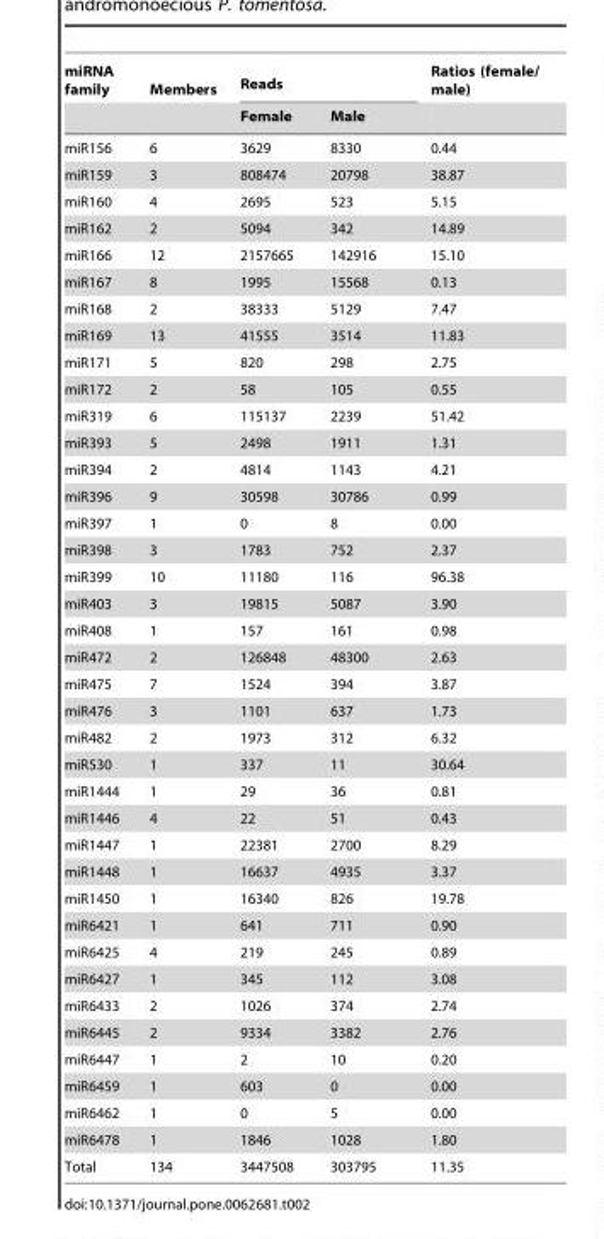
<table><thead><tr><td rowspan="2">miRNA family</td><td rowspan="2">Members</td><td colspan="2">Reads</td><td rowspan="2">Ratios (female/ male)</td></tr><tr><td>Female</td><td>Male</td></tr></thead><tbody><tr><td>miR156</td><td>6</td><td>3629</td><td>8330</td><td>0.44</td></tr><tr><td>miR159</td><td>3</td><td>808474</td><td>20798</td><td>38.87</td></tr><tr><td>miR160</td><td>4</td><td>2695</td><td>523</td><td>5.15</td></tr><tr><td>miR162</td><td>2</td><td>5094</td><td>342</td><td>14.89</td></tr><tr><td>miR166</td><td>12</td><td>2157665</td><td>142916</td><td>15.10</td></tr><tr><td>miR167</td><td>8</td><td>1995</td><td>15568</td><td>0.13</td></tr><tr><td>miR168</td><td>2</td><td>38333</td><td>5129</td><td>7.47</td></tr><tr><td>miR169</td><td>13</td><td>41555</td><td>3514</td><td>11.83</td></tr><tr><td>miR171</td><td>5</td><td>820</td><td>298</td><td>2.75</td></tr><tr><td>miR172</td><td>2</td><td>58</td><td>105</td><td>0.55</td></tr><tr><td>miR319</td><td>6</td><td>115137</td><td>2239</td><td>51.42</td></tr><tr><td>miR393</td><td>5</td><td>2498</td><td>1911</td><td>1.31</td></tr><tr><td>miR394</td><td>2</td><td>4814</td><td>1143</td><td>4.21</td></tr><tr><td>miR396</td><td>9</td><td>30598</td><td>30786</td><td>0.99</td></tr><tr><td>miR397</td><td>1</td><td>0</td><td>8</td><td>0.00</td></tr><tr><td>miR398</td><td>3</td><td>1783</td><td>752</td><td>2.37</td></tr><tr><td>miR399</td><td>10</td><td>11180</td><td>116</td><td>96.38</td></tr><tr><td>miR403</td><td>3</td><td>19815</td><td>5087</td><td>3.90</td></tr><tr><td>miR408</td><td>1</td><td>157</td><td>161</td><td>0.98</td></tr><tr><td>miR472</td><td>2</td><td>126848</td><td>48300</td><td>2.63</td></tr><tr><td>miR475</td><td>7</td><td>1524</td><td>394</td><td>3.87</td></tr><tr><td>miR476</td><td>3</td><td>1101</td><td>637</td><td>1.73</td></tr><tr><td>miR482</td><td>2</td><td>1973</td><td>312</td><td>6.32</td></tr><tr><td>miR530</td><td>1</td><td>337</td><td>11</td><td>30.64</td></tr><tr><td>miR1444</td><td>1</td><td>29</td><td>36</td><td>0.81</td></tr><tr><td>miR1446</td><td>4</td><td>22</td><td>51</td><td>0.43</td></tr><tr><td>miR1447</td><td>1</td><td>22381</td><td>2700</td><td>8.29</td></tr><tr><td>miR1448</td><td>1</td><td>16637</td><td>4935</td><td>3.37</td></tr><tr><td>miR1450</td><td>1</td><td>16340</td><td>826</td><td>19.78</td></tr><tr><td>miR6421</td><td>1</td><td>641</td><td>711</td><td>0.90</td></tr><tr><td>miR6425</td><td>4</td><td>219</td><td>245</td><td>0.89</td></tr><tr><td>miR6427</td><td>1</td><td>345</td><td>112</td><td>3.08</td></tr><tr><td>miR6433</td><td>2</td><td>1026</td><td>374</td><td>2.74</td></tr><tr><td>miR6445</td><td>2</td><td>9334</td><td>3382</td><td>2.76</td></tr><tr><td>miR6447</td><td>1</td><td>2</td><td>10</td><td>0.20</td></tr><tr><td>miR6459</td><td>1</td><td>603</td><td>0</td><td>0.00</td></tr><tr><td>miR6462</td><td>1</td><td>0</td><td>5</td><td>0.00</td></tr><tr><td>miR6478</td><td>1</td><td>1846</td><td>1028</td><td>1.80</td></tr><tr><td>Total</td><td>134</td><td>3447508</td><td>303795</td><td>11.35</td></tr></tbody></table>